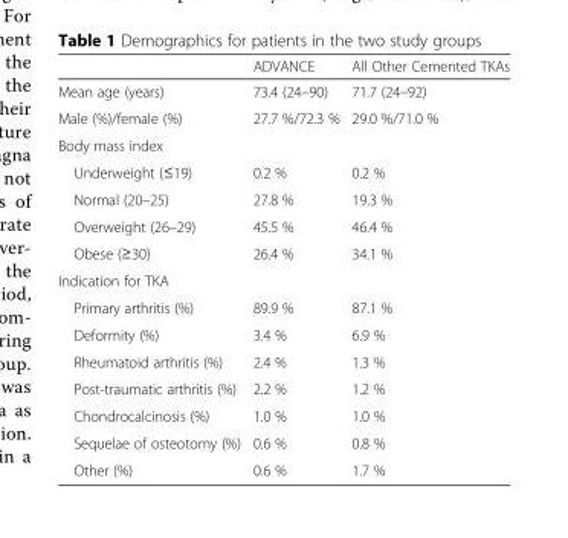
<table><thead><tr><td></td><td>ADVANCE</td><td>All Other Cemented TKAs</td></tr></thead><tbody><tr><td>Mean age (years)</td><td>73.4 (24–90)</td><td>71.7 (24–92)</td></tr><tr><td>Male (%)/female (%)</td><td>27.7 %/72.3 %</td><td>29.0 %/71.0 %</td></tr><tr><td colspan="3">Body mass index</td></tr><tr><td>Underweight (≤19)</td><td>0.2 %</td><td>0.2 %</td></tr><tr><td>Normal (20–25)</td><td>27.8 %</td><td>19.3 %</td></tr><tr><td>Overweight (26–29)</td><td>45.5 %</td><td>46.4 %</td></tr><tr><td>Obese (≥30)</td><td>26.4 %</td><td>34.1 %</td></tr><tr><td colspan="3">Indication for TKA</td></tr><tr><td>Primary arthritis (%)</td><td>89.9 %</td><td>87.1 %</td></tr><tr><td>Deformity (%)</td><td>3.4 %</td><td>6.9 %</td></tr><tr><td>Rheumatoid arthritis (%)</td><td>2.4 %</td><td>1.3 %</td></tr><tr><td>Post-traumatic arthritis (%)</td><td>2.2 %</td><td>1.2 %</td></tr><tr><td>Chondrocalcinosis (%)</td><td>1.0 %</td><td>1.0 %</td></tr><tr><td>Sequelae of osteotomy (%)</td><td>0.6 %</td><td>0.8 %</td></tr><tr><td>Other (%)</td><td>0.6 %</td><td>1.7 %</td></tr></tbody></table>